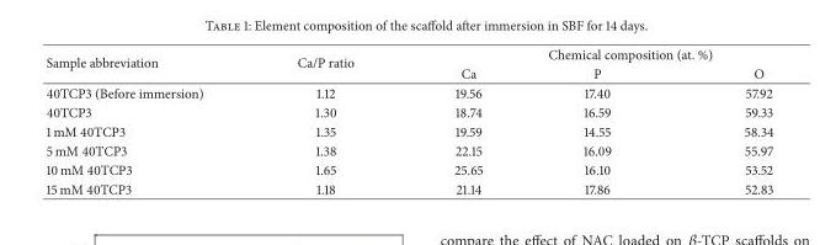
<table><thead><tr><td rowspan="2">Sample abbreviation</td><td rowspan="2">Ca/P ratio</td><td colspan="3">Chemical composition (at. %)</td></tr><tr><td>Ca</td><td>P</td><td>O</td></tr></thead><tbody><tr><td>40TCP3 (Before immersion)</td><td>1.12</td><td>19.56</td><td>17.40</td><td>57.92</td></tr><tr><td>40TCP3</td><td>1.30</td><td>18.74</td><td>16.59</td><td>59.33</td></tr><tr><td>1 mM 40TCP3</td><td>1.35</td><td>19.59</td><td>14.55</td><td>58.34</td></tr><tr><td>5 mM 40TCP3</td><td>1.38</td><td>22.15</td><td>16.09</td><td>55.97</td></tr><tr><td>10 mM 40TCP3</td><td>1.65</td><td>25.65</td><td>16.10</td><td>53.52</td></tr><tr><td>15 mM 40TCP3</td><td>1.18</td><td>21.14</td><td>17.86</td><td>52.83</td></tr></tbody></table>